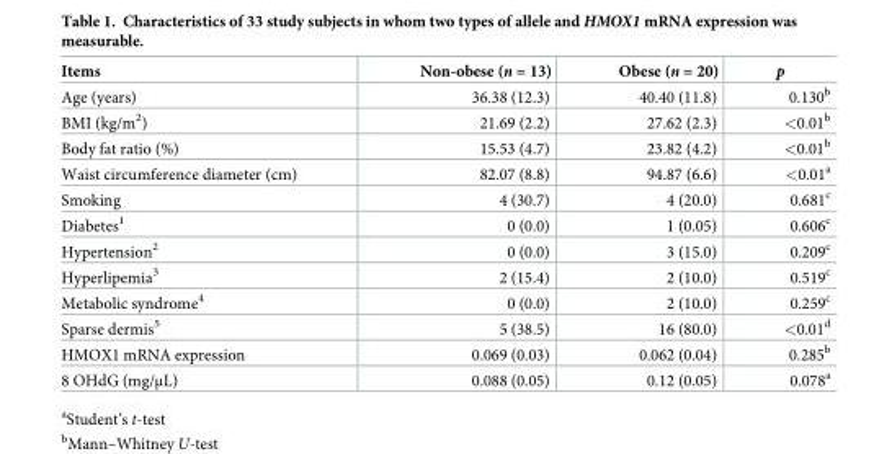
<table><thead><tr><td>Items</td><td>Non-obese (n = 13)</td><td>Obese (n = 20)</td><td>p</td></tr></thead><tbody><tr><td>Age (years)</td><td>36.38 (12.3)</td><td>40.40 (11.8)</td><td>0.130<sup>b</sup></td></tr><tr><td>BMI (kg/m<sup>2</sup>)</td><td>21.69 (2.2)</td><td>27.62 (2.3)</td><td>&lt;0.01<sup>b</sup></td></tr><tr><td>Body fat ratio (%)</td><td>15.53 (4.7)</td><td>23.82 (4.2)</td><td>&lt;0.01<sup>b</sup></td></tr><tr><td>Waist circumference diameter (cm)</td><td>82.07 (8.8)</td><td>94.87 (6.6)</td><td>&lt;0.01<sup>a</sup></td></tr><tr><td>Smoking</td><td>4 (30.7)</td><td>4 (20.0)</td><td>0.681<sup>c</sup></td></tr><tr><td>Diabetes<sup>1</sup></td><td>0 (0.0)</td><td>1 (0.05)</td><td>0.606<sup>c</sup></td></tr><tr><td>Hypertension<sup>2</sup></td><td>0 (0.0)</td><td>3 (15.0)</td><td>0.209<sup>c</sup></td></tr><tr><td>Hyperlipemia<sup>3</sup></td><td>2 (15.4)</td><td>2 (10.0)</td><td>0.519<sup>c</sup></td></tr><tr><td>Metabolic syndrome<sup>4</sup></td><td>0 (0.0)</td><td>2 (10.0)</td><td>0.259<sup>c</sup></td></tr><tr><td>Sparse dermis<sup>5</sup></td><td>5 (38.5)</td><td>16 (80.0)</td><td>&lt;0.01<sup>d</sup></td></tr><tr><td>HMOX1 mRNA expression</td><td>0.069 (0.03)</td><td>0.062 (0.04)</td><td>0.285<sup>b</sup></td></tr><tr><td>8 OHdG (mg/μL)</td><td>0.088 (0.05)</td><td>0.12 (0.05)</td><td>0.078<sup>a</sup></td></tr></tbody></table>